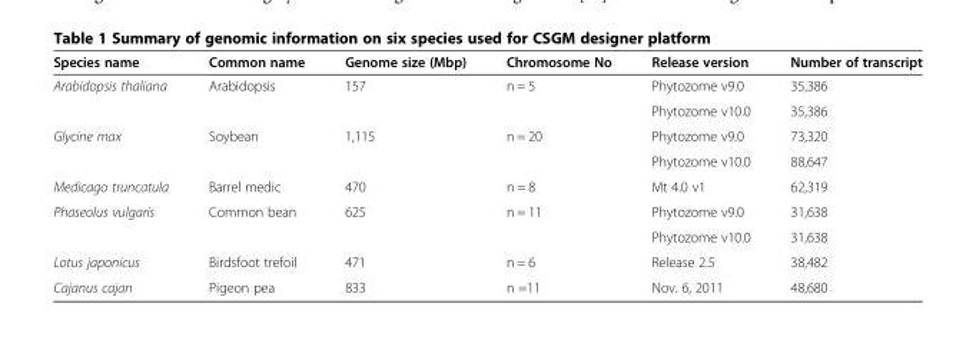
<table><thead><tr><td>Species name</td><td>Common name</td><td>Genome size (Mbp)</td><td>Chromosome No</td><td>Release version</td><td>Number of transcript</td></tr></thead><tbody><tr><td rowspan="2">Arabidopsis thaliana</td><td rowspan="2">Arabidopsis</td><td rowspan="2">157</td><td rowspan="2">n = 5</td><td>Phytozome v9.0</td><td>35,386</td></tr><tr><td>Phytozome v10.0</td><td>35,386</td></tr><tr><td rowspan="2">Glycine max</td><td rowspan="2">Soybean</td><td rowspan="2">1,115</td><td rowspan="2">n = 20</td><td>Phytozome v9.0</td><td>73,320</td></tr><tr><td>Phytozome v10.0</td><td>88,647</td></tr><tr><td>Medicago truncatula</td><td>Barrel medic</td><td>470</td><td>n = 8</td><td>Mt 4.0 v1</td><td>62,319</td></tr><tr><td rowspan="2">Phaseolus vulgaris</td><td rowspan="2">Common bean</td><td rowspan="2">625</td><td rowspan="2">n = 11</td><td>Phytozome v9.0</td><td>31,638</td></tr><tr><td>Phytozome v10.0</td><td>31,638</td></tr><tr><td>Lotus japonicus</td><td>Birdsfoot trefoil</td><td>471</td><td>n = 6</td><td>Release 2.5</td><td>38,482</td></tr><tr><td>Cajanus cajan</td><td>Pigeon pea</td><td>833</td><td>n =11</td><td>Nov. 6, 2011</td><td>48,680</td></tr></tbody></table>